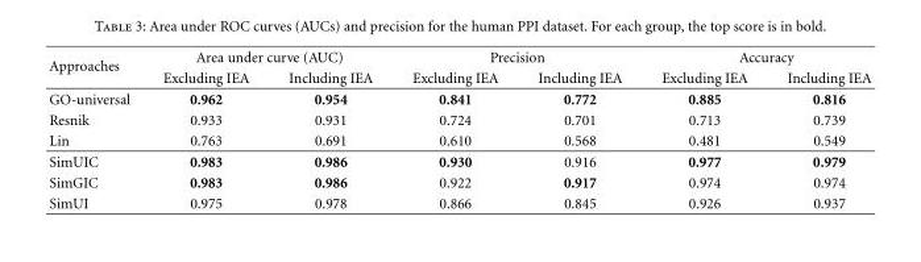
<table><thead><tr><td rowspan="2">Approaches</td><td colspan="2">Area under curve (AUC)</td><td colspan="2">Precision</td><td colspan="2">Accuracy</td></tr><tr><td>Excluding IEA</td><td>Including IEA</td><td>Excluding IEA</td><td>Including IEA</td><td>Excluding IEA</td><td>Including IEA</td></tr></thead><tbody><tr><td>GO-universal</td><td>0.962</td><td>0.954</td><td>0.841</td><td>0.772</td><td>0.885</td><td>0.816</td></tr><tr><td>Resnik</td><td>0.933</td><td>0.931</td><td>0.724</td><td>0.701</td><td>0.713</td><td>0.739</td></tr><tr><td>Lin</td><td>0.763</td><td>0.691</td><td>0.610</td><td>0.568</td><td>0.481</td><td>0.549</td></tr><tr><td>SimUIC</td><td>0.983</td><td>0.986</td><td>0.930</td><td>0.916</td><td>0.977</td><td>0.979</td></tr><tr><td>SimGIC</td><td>0.983</td><td>0.986</td><td>0.922</td><td>0.917</td><td>0.974</td><td>0.974</td></tr><tr><td>SimUI</td><td>0.975</td><td>0.978</td><td>0.866</td><td>0.845</td><td>0.926</td><td>0.937</td></tr></tbody></table>